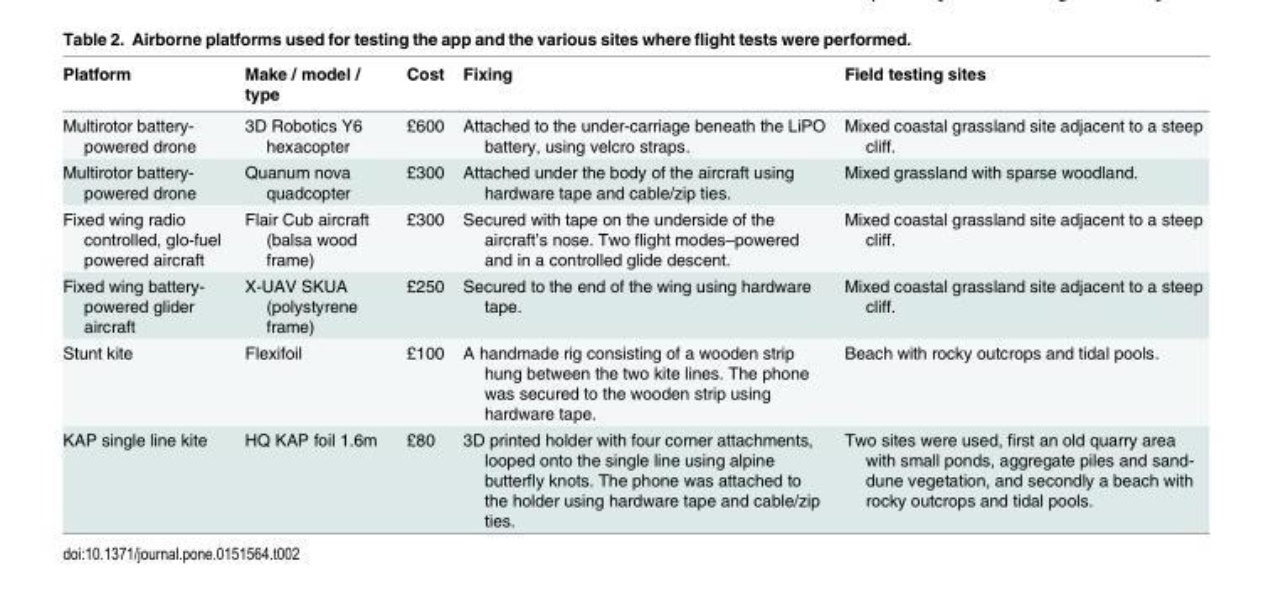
<table><thead><tr><td>Platform</td><td>Make / model / type</td><td>Cost</td><td>Fixing</td><td>Field testing sites</td></tr></thead><tbody><tr><td>Multirotor battery- powered drone</td><td>3D Robotics Y6 hexacopter</td><td>£600</td><td>Attached to the under-carriage beneath the LiPO battery, using velcro straps.</td><td>Mixed coastal grassland site adjacent to a steep cliff.</td></tr><tr><td>Multirotor battery- powered drone</td><td>Quanum nova quadcopter</td><td>£300</td><td>Attached under the body of the aircraft using hardware tape and cable/zip ties.</td><td>Mixed grassland with sparse woodland.</td></tr><tr><td>Fixed wing radio controlled, glo-fuel powered aircraft</td><td>Flair Cub aircraft (balsa wood frame)</td><td>£300</td><td>Secured with tape on the underside of the aircraft’s nose. Two flight modes–powered and in a controlled glide descent.</td><td>Mixed coastal grassland site adjacent to a steep cliff.</td></tr><tr><td>Fixed wing battery- powered glider aircraft</td><td>X-UAV SKUA (polystyrene frame)</td><td>£250</td><td>Secured to the end of the wing using hardware tape.</td><td>Mixed coastal grassland site adjacent to a steep cliff.</td></tr><tr><td>Stunt kite</td><td>Flexifoil</td><td>£100</td><td>A handmade rig consisting of a wooden strip hung between the two kite lines. The phone was secured to the wooden strip using hardware tape.</td><td>Beach with rocky outcrops and tidal pools.</td></tr><tr><td>KAP single line kite</td><td>HQ KAP foil 1.6m</td><td>£80</td><td>3D printed holder with four corner attachments, looped onto the single line using alpine butterfly knots. The phone was attached to the holder using hardware tape and cable/zip ties.</td><td>Two sites were used, first an old quarry area with small ponds, aggregate piles and sand- dune vegetation, and secondly a beach with rocky outcrops and tidal pools.</td></tr></tbody></table>